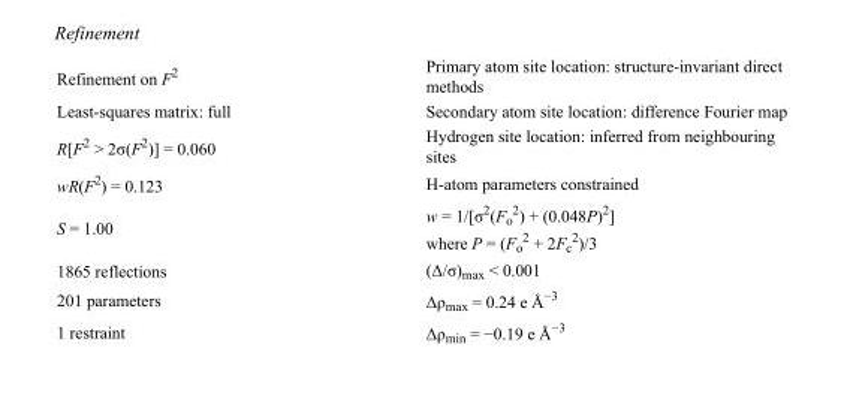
<table><tbody><tr><td>Refinement on F<sup>2</sup></td><td>Primary atom site location: structure-invariant direct methods</td></tr><tr><td>Least-squares matrix: full</td><td>Secondary atom site location: difference Fourier map</td></tr><tr><td>R[F<sup>2</sup> &gt; 2σ(F<sup>2</sup>)] = 0.060</td><td>Hydrogen site location: inferred from neighbouring sites</td></tr><tr><td>wR(F<sup>2</sup>) = 0.123</td><td>H-atom parameters constrained</td></tr><tr><td>S = 1.00</td><td>w = 1/[σ<sup>2</sup>(F<sub>o</sub> <sup>2</sup>) + (0.048P)<sup>2</sup>] where P = (F<sub>o</sub> <sup>2</sup> + 2F<sub>c</sub> <sup>2</sup>)/3</td></tr><tr><td>1865 reflections</td><td>(Δ/σ)<sub>max</sub> &lt; 0.001</td></tr><tr><td>201 parameters</td><td>Δρ<sub>max</sub> = 0.24 e Å<sup>−3</sup></td></tr><tr><td>1 restraint</td><td>Δρ<sub>min</sub> = −0.19 e Å<sup>−3</sup></td></tr></tbody></table>